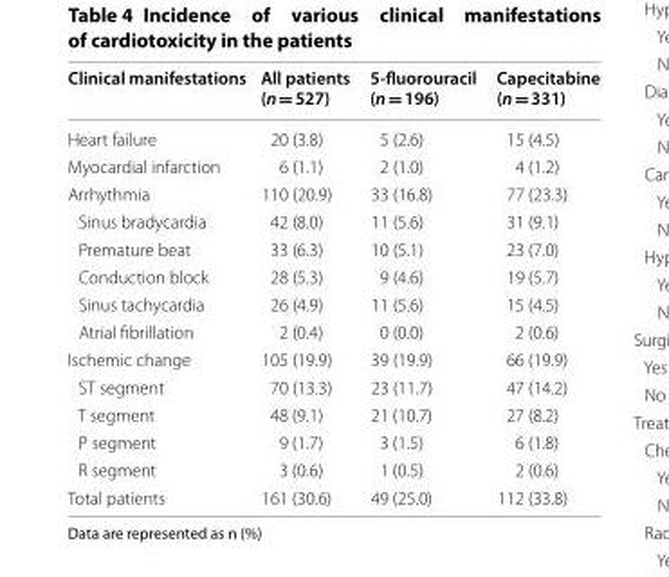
<table><thead><tr><td>Clinical manifestations</td><td>All patients (n = 527)</td><td>5‑fluorouracil (n = 196)</td><td>Capecitabine (n = 331)</td></tr></thead><tbody><tr><td>Heart failure</td><td>20 (3.8)</td><td>5 (2.6)</td><td>15 (4.5)</td></tr><tr><td>Myocardial infarction</td><td>6 (1.1)</td><td>2 (1.0)</td><td>4 (1.2)</td></tr><tr><td>Arrhythmia</td><td>110 (20.9)</td><td>33 (16.8)</td><td>77 (23.3)</td></tr><tr><td>Sinus bradycardia</td><td>42 (8.0)</td><td>11 (5.6)</td><td>31 (9.1)</td></tr><tr><td>Premature beat</td><td>33 (6.3)</td><td>10 (5.1)</td><td>23 (7.0)</td></tr><tr><td>Conduction block</td><td>28 (5.3)</td><td>9 (4.6)</td><td>19 (5.7)</td></tr><tr><td>Sinus tachycardia</td><td>26 (4.9)</td><td>11 (5.6)</td><td>15 (4.5)</td></tr><tr><td>Atrial fibrillation</td><td>2 (0.4)</td><td>0 (0.0)</td><td>2 (0.6)</td></tr><tr><td>Ischemic change</td><td>105 (19.9)</td><td>39 (19.9)</td><td>66 (19.9)</td></tr><tr><td>ST segment</td><td>70 (13.3)</td><td>23 (11.7)</td><td>47 (14.2)</td></tr><tr><td>T segment</td><td>48 (9.1)</td><td>21 (10.7)</td><td>27 (8.2)</td></tr><tr><td>P segment</td><td>9 (1.7)</td><td>3 (1.5)</td><td>6 (1.8)</td></tr><tr><td>R segment</td><td>3 (0.6)</td><td>1 (0.5)</td><td>2 (0.6)</td></tr><tr><td>Total patients</td><td>161 (30.6)</td><td>49 (25.0)</td><td>112 (33.8)</td></tr></tbody></table>